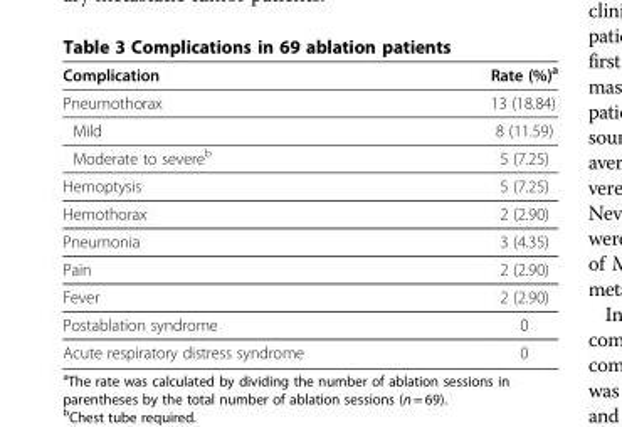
<table><thead><tr><td>Complication</td><td>Rate (%)<sup>a</sup></td></tr></thead><tbody><tr><td>Pneumothorax</td><td>13 (18.84)</td></tr><tr><td>Mild</td><td>8 (11.59)</td></tr><tr><td>Moderate to severe<sup>b</sup></td><td>5 (7.25)</td></tr><tr><td>Hemoptysis</td><td>5 (7.25)</td></tr><tr><td>Hemothorax</td><td>2 (2.90)</td></tr><tr><td>Pneumonia</td><td>3 (4.35)</td></tr><tr><td>Pain</td><td>2 (2.90)</td></tr><tr><td>Fever</td><td>2 (2.90)</td></tr><tr><td>Postablation syndrome</td><td>0</td></tr><tr><td>Acute respiratory distress syndrome</td><td>0</td></tr></tbody></table>